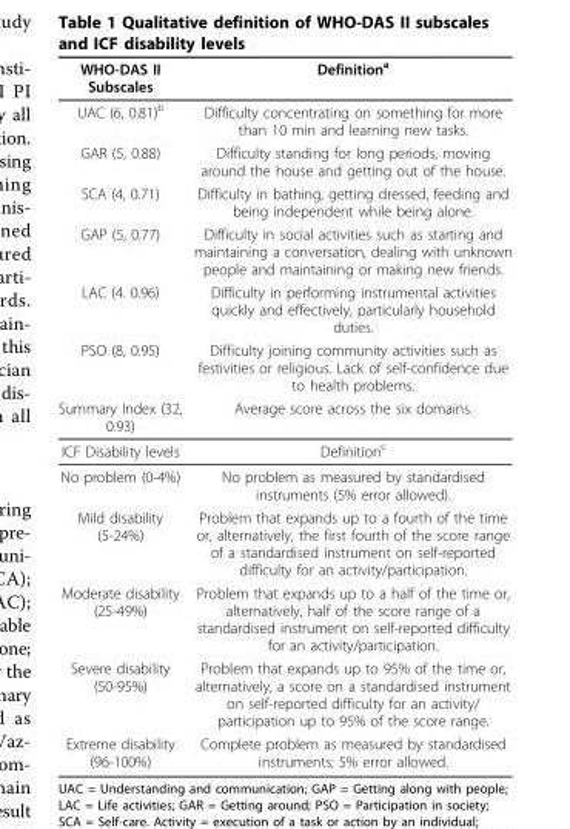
<table><thead><tr><td>WHO-DAS II Subscales</td><td>Definition<sup>a</sup></td></tr></thead><tbody><tr><td>UAC (6, 0.81)<sup>b</sup></td><td>Difficulty concentrating on something for more than 10 min and learning new tasks.</td></tr><tr><td>GAR (5, 0.88)</td><td>Difficulty standing for long periods, moving around the house and getting out of the house.</td></tr><tr><td>SCA (4, 0.71)</td><td>Difficulty in bathing, getting dressed, feeding and being independent while being alone.</td></tr><tr><td>GAP (5, 0.77)</td><td>Difficulty in social activities such as starting and maintaining a conversation, dealing with unknown people and maintaining or making new friends.</td></tr><tr><td>LAC (4. 0.96)</td><td>Difficulty in performing instrumental activities quickly and effectively, particularly household duties.</td></tr><tr><td>PSO (8, 0.95)</td><td>Difficulty joining community activities such as festivities or religious. Lack of self-confidence due to health problems.</td></tr><tr><td>Summary Index (32, 0.93)</td><td>Average score across the six domains.</td></tr><tr><td>ICF Disability levels</td><td>Definition<sup>c</sup></td></tr><tr><td>No problem (0-4%)</td><td>No problem as measured by standardised instruments (5% error allowed).</td></tr><tr><td>Mild disability (5-24%)</td><td>Problem that expands up to a fourth of the time or, alternatively, the first fourth of the score range of a standardised instrument on self-reported difficulty for an activity/participation.</td></tr><tr><td>Moderate disability (25-49%)</td><td>Problem that expands up to a half of the time or, alternatively, half of the score range of a standardised instrument on self-reported difficulty for an activity/participation.</td></tr><tr><td>Severe disability (50-95%)</td><td>Problem that expands up to 95% of the time or, alternatively, a score on a standardised instrument on self-reported difficulty for an activity/ participation up to 95% of the score range.</td></tr><tr><td>Extreme disability (96-100%)</td><td>Complete problem as measured by standardised instruments; 5% error allowed.</td></tr></tbody></table>